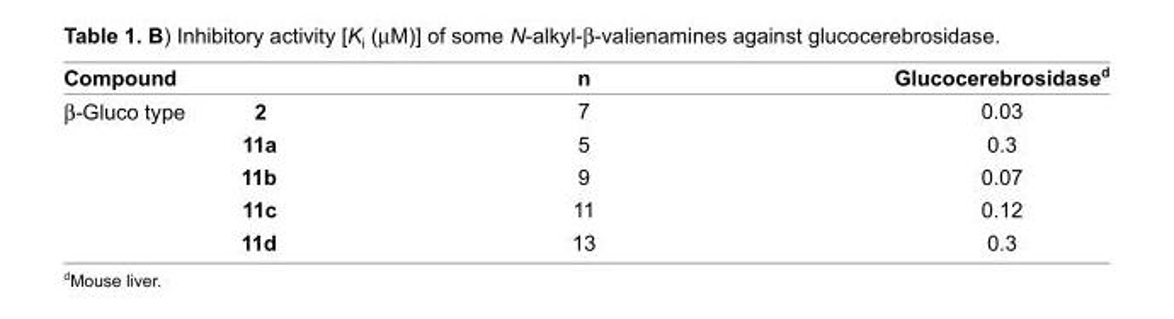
<table><thead><tr><td>Compound</td><td></td><td>n</td><td>Glucocerebrosidase<sup>d</sup></td></tr></thead><tbody><tr><td rowspan="5">β-Gluco type</td><td>2</td><td>7</td><td>0.03</td></tr><tr><td>11a</td><td>5</td><td>0.3</td></tr><tr><td>11b</td><td>9</td><td>0.07</td></tr><tr><td>11c</td><td>11</td><td>0.12</td></tr><tr><td>11d</td><td>13</td><td>0.3</td></tr></tbody></table>